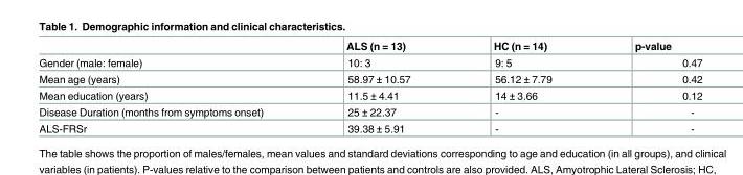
<table><thead><tr><td></td><td>ALS (n = 13)</td><td>HC (n = 14)</td><td>p-value</td></tr></thead><tbody><tr><td>Gender (male: female)</td><td>10: 3</td><td>9: 5</td><td>0.47</td></tr><tr><td>Mean age (years)</td><td>58.97 ± 10.57</td><td>56.12 ± 7.79</td><td>0.42</td></tr><tr><td>Mean education (years)</td><td>11.5 ± 4.41</td><td>14 ± 3.66</td><td>0.12</td></tr><tr><td>Disease Duration (months from symptoms onset)</td><td>25 ± 22.37</td><td>-</td><td>-</td></tr><tr><td>ALS-FRSr</td><td>39.38 ± 5.91</td><td>-</td><td>-</td></tr></tbody></table>